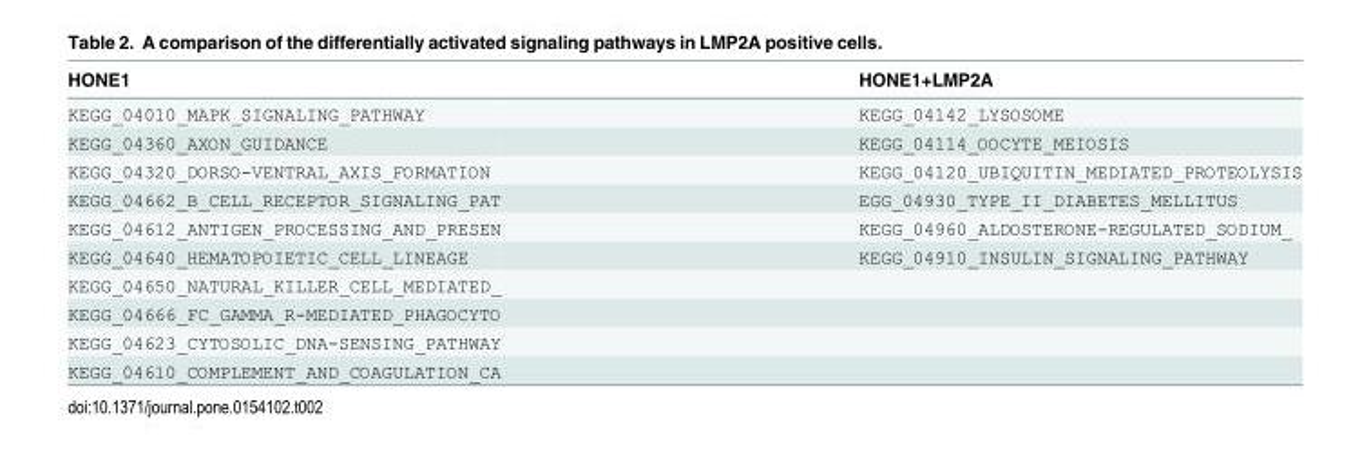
<table><thead><tr><td>HONE1</td><td>HONE1+LMP2A</td></tr></thead><tbody><tr><td>KEGG_04010_MAPK_SIGNALING_PATHWAY</td><td>KEGG_04142_LYSOSOME</td></tr><tr><td>KEGG_04360_AXON_GUIDANCE</td><td>KEGG_04114_OOCYTE_MEIOSIS</td></tr><tr><td>KEGG_04320_DORSO-VENTRAL_AXIS_FORMATION</td><td>KEGG_04120_UBIQUITIN_MEDIATED_PROTEOLYSIS</td></tr><tr><td>KEGG_04662_B_CELL_RECEPTOR_SIGNALING_PAT</td><td>EGG_04930_TYPE_II_DIABETES_MELLITUS</td></tr><tr><td>KEGG_04612_ANTIGEN_PROCESSING_AND_PRESEN</td><td>KEGG_04960_ALDOSTERONE-REGULATED_SODIUM_</td></tr><tr><td>KEGG_04640_HEMATOPOIETIC_CELL_LINEAGE</td><td>KEGG_04910_INSULIN_SIGNALING_PATHWAY</td></tr><tr><td colspan="2">KEGG_04650_NATURAL_KILLER_CELL_MEDIATED_</td></tr><tr><td colspan="2">KEGG_04666_FC_GAMMA_R-MEDIATED_PHAGOCYTO</td></tr><tr><td colspan="2">KEGG_04623_CYTOSOLIC_DNA-SENSING_PATHWAY</td></tr><tr><td>KEGG_04610_COMPLEMENT_AND_COAGULATION_CA</td><td></td></tr></tbody></table>